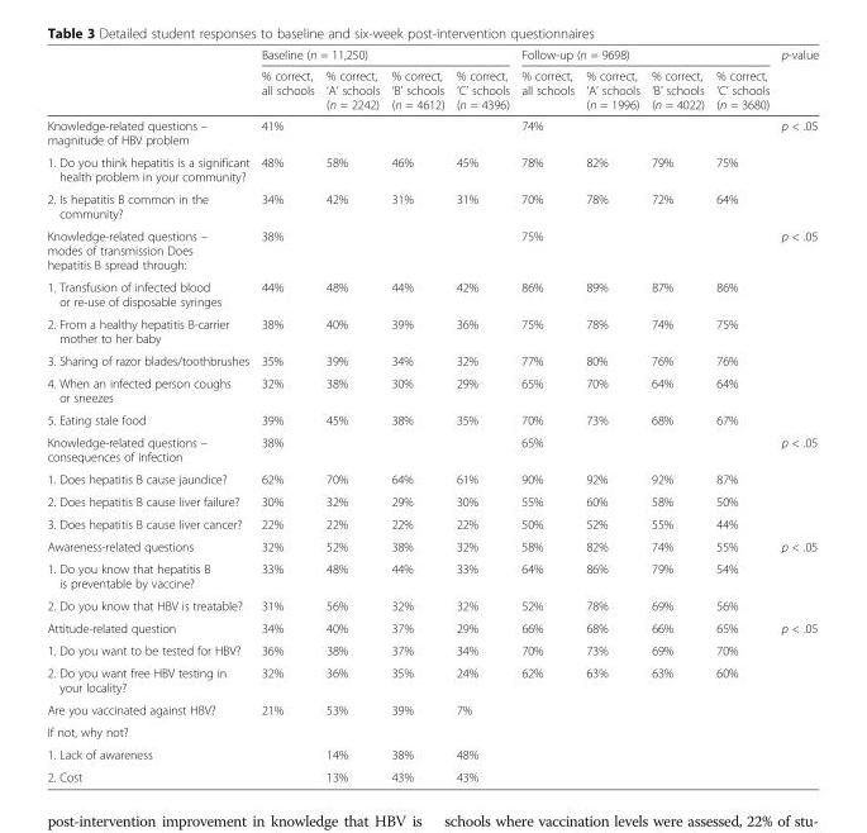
<table><thead><tr><td rowspan="2"></td><td colspan="4">Baseline (n = 11,250)</td><td colspan="4">Follow-up (n = 9698)</td><td rowspan="2">p-value</td></tr><tr><td>% correct, all schools</td><td>% correct, ‘A’ schools (n = 2242)</td><td>% correct, ‘B’ schools (n = 4612)</td><td>% correct, ‘C’ schools (n = 4396)</td><td>% correct, all schools</td><td>% correct, ‘A’ schools (n = 1996)</td><td>% correct, ‘B’ schools (n = 4022)</td><td>% correct, ‘C’ schools (n = 3680)</td></tr></thead><tbody><tr><td>Knowledge-related questions – magnitude of HBV problem</td><td>41%</td><td></td><td></td><td></td><td>74%</td><td></td><td></td><td></td><td>p &lt; .05</td></tr><tr><td>1. Do you think hepatitis is a significant health problem in your community?</td><td>48%</td><td>58%</td><td>46%</td><td>45%</td><td>78%</td><td>82%</td><td>79%</td><td>75%</td><td></td></tr><tr><td>2. Is hepatitis B common in the community?</td><td>34%</td><td>42%</td><td>31%</td><td>31%</td><td>70%</td><td>78%</td><td>72%</td><td>64%</td><td></td></tr><tr><td>Knowledge-related questions – modes of transmission Does hepatitis B spread through:</td><td>38%</td><td></td><td></td><td></td><td>75%</td><td></td><td></td><td></td><td>p &lt; .05</td></tr><tr><td>1. Transfusion of infected blood or re-use of disposable syringes</td><td>44%</td><td>48%</td><td>44%</td><td>42%</td><td>86%</td><td>89%</td><td>87%</td><td>86%</td><td></td></tr><tr><td>2. From a healthy hepatitis B-carrier mother to her baby</td><td>38%</td><td>40%</td><td>39%</td><td>36%</td><td>75%</td><td>78%</td><td>74%</td><td>75%</td><td></td></tr><tr><td>3. Sharing of razor blades/toothbrushes</td><td>35%</td><td>39%</td><td>34%</td><td>32%</td><td>77%</td><td>80%</td><td>76%</td><td>76%</td><td></td></tr><tr><td>4. When an infected person coughs or sneezes</td><td>32%</td><td>38%</td><td>30%</td><td>29%</td><td>65%</td><td>70%</td><td>64%</td><td>64%</td><td></td></tr><tr><td>5. Eating stale food</td><td>39%</td><td>45%</td><td>38%</td><td>35%</td><td>70%</td><td>73%</td><td>68%</td><td>67%</td><td></td></tr><tr><td>Knowledge-related questions – consequences of infection</td><td>38%</td><td></td><td></td><td></td><td>65%</td><td></td><td></td><td></td><td>p &lt; .05</td></tr><tr><td>1. Does hepatitis B cause jaundice?</td><td>62%</td><td>70%</td><td>64%</td><td>61%</td><td>90%</td><td>92%</td><td>92%</td><td>87%</td><td></td></tr><tr><td>2. Does hepatitis B cause liver failure?</td><td>30%</td><td>32%</td><td>29%</td><td>30%</td><td>55%</td><td>60%</td><td>58%</td><td>50%</td><td></td></tr><tr><td>3. Does hepatitis B cause liver cancer?</td><td>22%</td><td>22%</td><td>22%</td><td>22%</td><td>50%</td><td>52%</td><td>55%</td><td>44%</td><td></td></tr><tr><td>Awareness-related questions</td><td>32%</td><td>52%</td><td>38%</td><td>32%</td><td>58%</td><td>82%</td><td>74%</td><td>55%</td><td>p &lt; .05</td></tr><tr><td>1. Do you know that hepatitis B is preventable by vaccine?</td><td>33%</td><td>48%</td><td>44%</td><td>33%</td><td>64%</td><td>86%</td><td>79%</td><td>54%</td><td></td></tr><tr><td>2. Do you know that HBV is treatable?</td><td>31%</td><td>56%</td><td>32%</td><td>32%</td><td>52%</td><td>78%</td><td>69%</td><td>56%</td><td></td></tr><tr><td>Attitude-related question</td><td>34%</td><td>40%</td><td>37%</td><td>29%</td><td>66%</td><td>68%</td><td>66%</td><td>65%</td><td>p &lt; .05</td></tr><tr><td>1. Do you want to be tested for HBV?</td><td>36%</td><td>38%</td><td>37%</td><td>34%</td><td>70%</td><td>73%</td><td>69%</td><td>70%</td><td></td></tr><tr><td>2. Do you want free HBV testing in your locality?</td><td>32%</td><td>36%</td><td>35%</td><td>24%</td><td>62%</td><td>63%</td><td>63%</td><td>60%</td><td></td></tr><tr><td>Are you vaccinated against HBV?</td><td>21%</td><td>53%</td><td>39%</td><td>7%</td><td></td><td></td><td></td><td></td><td></td></tr><tr><td colspan="10">If not, why not?</td></tr><tr><td>1. Lack of awareness</td><td></td><td>14%</td><td>38%</td><td>48%</td><td></td><td></td><td></td><td></td><td></td></tr><tr><td>2. Cost</td><td></td><td>13%</td><td>43%</td><td>43%</td><td></td><td></td><td></td><td></td><td></td></tr></tbody></table>